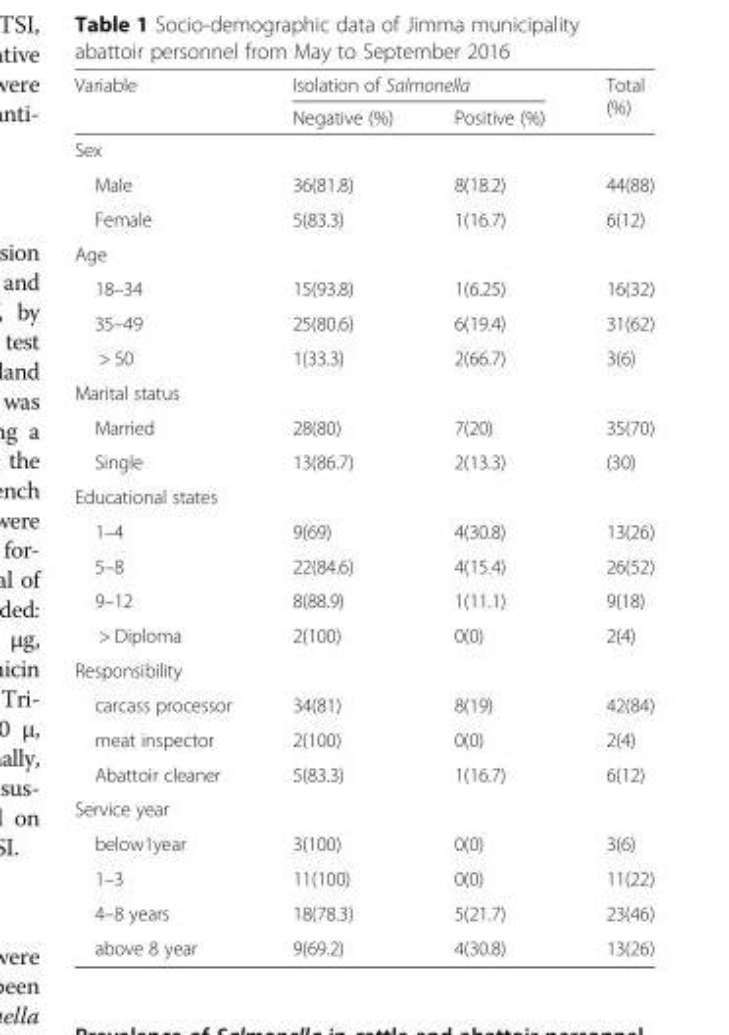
<table><thead><tr><td rowspan="2">Variable</td><td colspan="2">Isolation of Salmonella</td><td rowspan="2">Total (%)</td></tr><tr><td>Negative (%)</td><td>Positive (%)</td></tr></thead><tbody><tr><td colspan="4">Sex</td></tr><tr><td>Male</td><td>36(81.8)</td><td>8(18.2)</td><td>44(88)</td></tr><tr><td>Female</td><td>5(83.3)</td><td>1(16.7)</td><td>6(12)</td></tr><tr><td colspan="4">Age</td></tr><tr><td>18–34</td><td>15(93.8)</td><td>1(6.25)</td><td>16(32)</td></tr><tr><td>35–49</td><td>25(80.6)</td><td>6(19.4)</td><td>31(62)</td></tr><tr><td>&gt; 50</td><td>1(33.3)</td><td>2(66.7)</td><td>3(6)</td></tr><tr><td colspan="4">Marital status</td></tr><tr><td>Married</td><td>28(80)</td><td>7(20)</td><td>35(70)</td></tr><tr><td>Single</td><td>13(86.7)</td><td>2(13.3)</td><td>(30)</td></tr><tr><td colspan="4">Educational states</td></tr><tr><td>1–4</td><td>9(69)</td><td>4(30.8)</td><td>13(26)</td></tr><tr><td>5–8</td><td>22(84.6)</td><td>4(15.4)</td><td>26(52)</td></tr><tr><td>9–12</td><td>8(88.9)</td><td>1(11.1)</td><td>9(18)</td></tr><tr><td>&gt; Diploma</td><td>2(100)</td><td>0(0)</td><td>2(4)</td></tr><tr><td colspan="4">Responsibility</td></tr><tr><td>carcass processor</td><td>34(81)</td><td>8(19)</td><td>42(84)</td></tr><tr><td>meat inspector</td><td>2(100)</td><td>0(0)</td><td>2(4)</td></tr><tr><td>Abattoir cleaner</td><td>5(83.3)</td><td>1(16.7)</td><td>6(12)</td></tr><tr><td colspan="4">Service year</td></tr><tr><td>below1year</td><td>3(100)</td><td>0(0)</td><td>3(6)</td></tr><tr><td>1–3</td><td>11(100)</td><td>0(0)</td><td>11(22)</td></tr><tr><td>4–8 years</td><td>18(78.3)</td><td>5(21.7)</td><td>23(46)</td></tr><tr><td>above 8 year</td><td>9(69.2)</td><td>4(30.8)</td><td>13(26)</td></tr></tbody></table>